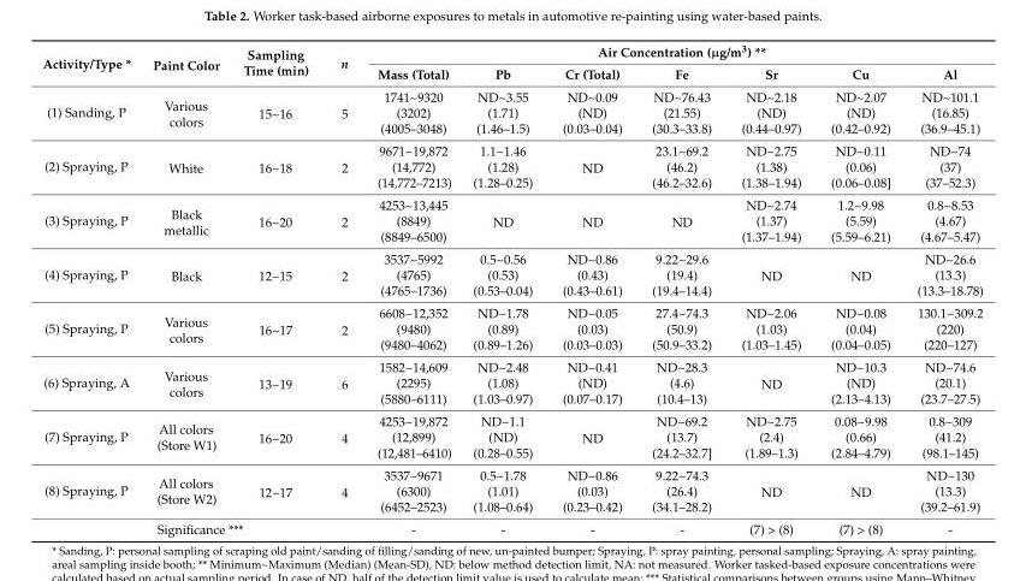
<table><thead><tr><td rowspan="2">Activity/Type *</td><td rowspan="2">Paint Color</td><td rowspan="2">Sampling Time (min)</td><td rowspan="2">n</td><td colspan="7">Air Concentration (µg/m<sup>3</sup>) **</td></tr><tr><td>Mass (Total)</td><td>Pb</td><td>Cr (Total)</td><td>Fe</td><td>Sr</td><td>Cu</td><td>Al</td></tr></thead><tbody><tr><td rowspan="3">(1) Sanding, P</td><td rowspan="3">Various colors</td><td rowspan="3">15~16</td><td rowspan="3">5</td><td>1741~9320</td><td>ND~3.55</td><td>ND~0.09</td><td>ND~76.43</td><td>ND~2.18</td><td>ND~2.07</td><td>ND~101.1</td></tr><tr><td>(3202)</td><td>(1.71)</td><td>(ND)</td><td>(21.55)</td><td>(ND)</td><td>(ND)</td><td>(16.85)</td></tr><tr><td>(4005–3048)</td><td>(1.46–1.5)</td><td>(0.03–0.04)</td><td>(30.3–33.8)</td><td>(0.44–0.97)</td><td>(0.42–0.92)</td><td>(36.9–45.1)</td></tr><tr><td rowspan="3">(2) Spraying, P</td><td rowspan="3">White</td><td rowspan="3">16~18</td><td rowspan="3">2</td><td>9671~19,872</td><td>1.1~1.46</td><td rowspan="3">ND</td><td>23.1~69.2</td><td>ND~2.75</td><td>ND~0.11</td><td>ND~74</td></tr><tr><td>(14,772)</td><td>(1.28)</td><td>(46.2)</td><td>(1.38)</td><td>(0.06)</td><td>(37)</td></tr><tr><td>(14,772–7213)</td><td>(1.28–0.25)</td><td>(46.2–32.6)</td><td>(1.38–1.94)</td><td>(0.06–0.08]</td><td>(37–52.3)</td></tr><tr><td rowspan="3">(3) Spraying, P</td><td rowspan="3">Black metallic</td><td rowspan="3">16~20</td><td rowspan="3">2</td><td>4253~13,445</td><td rowspan="3">ND</td><td rowspan="3">ND</td><td rowspan="3">ND</td><td>ND~2.74</td><td>1.2~9.98</td><td>0.8~8.53</td></tr><tr><td>(8849)</td><td>(1.37)</td><td>(5.59)</td><td>(4.67)</td></tr><tr><td>(8849–6500)</td><td>(1.37–1.94)</td><td>(5.59–6.21)</td><td>(4.67–5.47)</td></tr><tr><td rowspan="3">(4) Spraying, P</td><td rowspan="3">Black</td><td rowspan="3">12~15</td><td rowspan="3">2</td><td>3537~5992</td><td>0.5~0.56</td><td>ND~0.86</td><td>9.22~29.6</td><td rowspan="3">ND</td><td rowspan="3">ND</td><td>ND~26.6</td></tr><tr><td>(4765)</td><td>(0.53)</td><td>(0.43)</td><td>(19.4)</td><td>(13.3)</td></tr><tr><td>(4765–1736)</td><td>(0.53–0.04)</td><td>(0.43–0.61)</td><td>(19.4–14.4)</td><td>(13.3–18.78)</td></tr><tr><td rowspan="3">(5) Spraying, P</td><td rowspan="3">Various colors</td><td rowspan="3">16~17</td><td rowspan="3">2</td><td>6608~12,352</td><td>ND~1.78</td><td>ND~0.05</td><td>27.4~74.3</td><td>ND~2.06</td><td>ND~0.08</td><td>130.1~309.2</td></tr><tr><td>(9480)</td><td>(0.89)</td><td>(0.03)</td><td>(50.9)</td><td>(1.03)</td><td>(0.04)</td><td>(220)</td></tr><tr><td>(9480–4062)</td><td>(0.89–1.26)</td><td>(0.03–0.03)</td><td>(50.9–33.2)</td><td>(1.03–1.45)</td><td>(0.04–0.05)</td><td>(220–127)</td></tr><tr><td rowspan="3">(6) Spraying, A</td><td rowspan="3">Various colors</td><td rowspan="3">13~19</td><td rowspan="3">6</td><td>1582~14,609</td><td>ND~2.48</td><td>ND~0.41</td><td>ND~28.3</td><td rowspan="3">ND</td><td>ND~10.3</td><td>ND~74.6</td></tr><tr><td>(2295)</td><td>(1.08)</td><td>(ND)</td><td>(4.6)</td><td>(ND)</td><td>(20.1)</td></tr><tr><td>(5880–6111)</td><td>(1.03–0.97)</td><td>(0.07–0.17)</td><td>(10.4–13)</td><td>(2.13–4.13)</td><td>(23.7–27.5)</td></tr><tr><td rowspan="3">(7) Spraying, P</td><td rowspan="3">All colors (Store W1)</td><td rowspan="3">16~20</td><td rowspan="3">4</td><td>4253~19,872</td><td>ND~1.1</td><td rowspan="3">ND</td><td>ND~69.2</td><td>ND~2.75</td><td>0.08~9.98</td><td>0.8~309</td></tr><tr><td>(12,899)</td><td>(ND)</td><td>(13.7)</td><td>(2.4)</td><td>(0.66)</td><td>(41.2)</td></tr><tr><td>(12,481–6410)</td><td>(0.28–0.55)</td><td>(24.2–32.7]</td><td>(1.89–1.3)</td><td>(2.84–4.79)</td><td>(98.1–145)</td></tr><tr><td rowspan="3">(8) Spraying, P</td><td rowspan="3">All colors (Store W2)</td><td rowspan="3">12~17</td><td rowspan="3">4</td><td>3537~9671</td><td>0.5~1.78</td><td>ND~0.86</td><td>9.22~74.3</td><td rowspan="3">ND</td><td rowspan="3">ND</td><td>ND~130</td></tr><tr><td>(6300)</td><td>(1.01)</td><td>(0.03)</td><td>(26.4)</td><td>(13.3)</td></tr><tr><td>(6452–2523)</td><td>(1.08–0.64)</td><td>(0.23–0.42)</td><td>(34.1–28.2)</td><td>(39.2–61.9)</td></tr><tr><td colspan="4">Significance ***</td><td>-</td><td>-</td><td>-</td><td>-</td><td>(7) &gt; (8)</td><td>(7) &gt; (8)</td><td>-</td></tr></tbody></table>